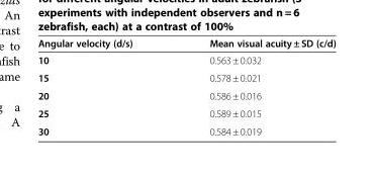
<table><thead><tr><td>Angular velocity (d/s)</td><td>Mean visual acuity ± SD (c/d)</td></tr></thead><tbody><tr><td>10</td><td>0.563 ± 0.032</td></tr><tr><td>15</td><td>0.578 ± 0.021</td></tr><tr><td>20</td><td>0.586 ± 0.016</td></tr><tr><td>25</td><td>0.589 ± 0.015</td></tr><tr><td>30</td><td>0.584 ± 0.019</td></tr></tbody></table>